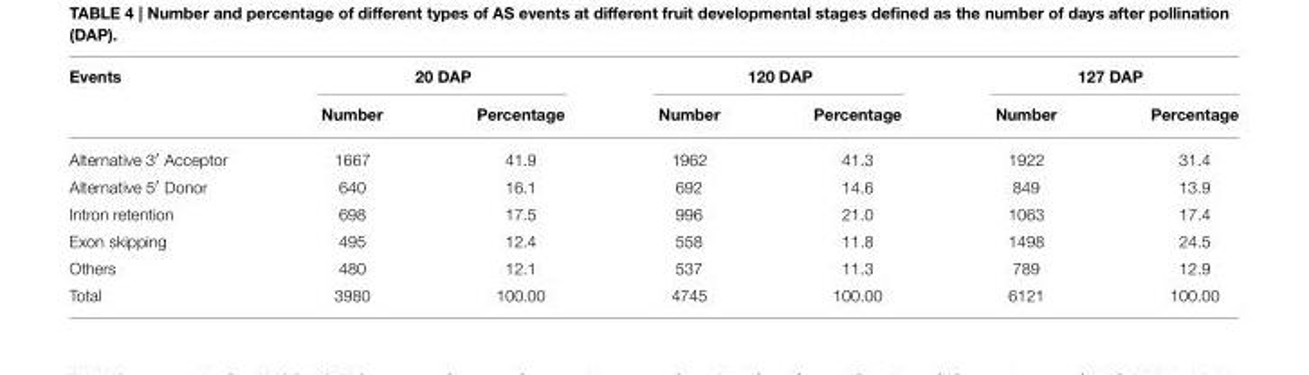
<table><thead><tr><td rowspan="2">Events</td><td colspan="2">20 DAP</td><td colspan="2">120 DAP</td><td colspan="2">127 DAP</td></tr><tr><td>Number</td><td>Percentage</td><td>Number</td><td>Percentage</td><td>Number</td><td>Percentage</td></tr></thead><tbody><tr><td>Alternative 3′ Acceptor</td><td>1667</td><td>41.9</td><td>1962</td><td>41.3</td><td>1922</td><td>31.4</td></tr><tr><td>Alternative 5′ Donor</td><td>640</td><td>16.1</td><td>692</td><td>14.6</td><td>849</td><td>13.9</td></tr><tr><td>Intron retention</td><td>698</td><td>17.5</td><td>996</td><td>21.0</td><td>1063</td><td>17.4</td></tr><tr><td>Exon skipping</td><td>495</td><td>12.4</td><td>558</td><td>11.8</td><td>1498</td><td>24.5</td></tr><tr><td>Others</td><td>480</td><td>12.1</td><td>537</td><td>11.3</td><td>789</td><td>12.9</td></tr><tr><td>Total</td><td>3980</td><td>100.00</td><td>4745</td><td>100.00</td><td>6121</td><td>100.00</td></tr></tbody></table>